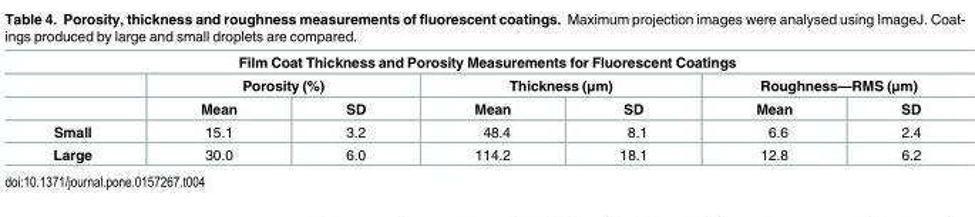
<table><thead><tr><td colspan="7">Film Coat Thickness and Porosity Measurements for Fluorescent Coatings</td></tr><tr><td rowspan="2"></td><td colspan="2">Porosity (%)</td><td colspan="2">Thickness (μm)</td><td colspan="2">Roughness—RMS (μm)</td></tr><tr><td>Mean</td><td>SD</td><td>Mean</td><td>SD</td><td>Mean</td><td>SD</td></tr></thead><tbody><tr><td>Small</td><td>15.1</td><td>3.2</td><td>48.4</td><td>8.1</td><td>6.6</td><td>2.4</td></tr><tr><td>Large</td><td>30.0</td><td>6.0</td><td>114.2</td><td>18.1</td><td>12.8</td><td>6.2</td></tr></tbody></table>